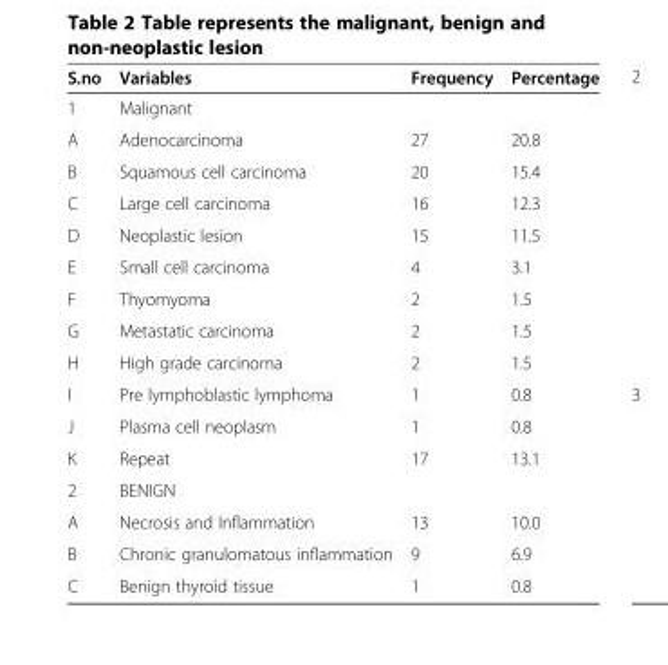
<table><thead><tr><td>S.no</td><td>Variables</td><td>Frequency</td><td>Percentage</td></tr></thead><tbody><tr><td>1</td><td>Malignant</td><td></td><td></td></tr><tr><td>A</td><td>Adenocarcinoma</td><td>27</td><td>20.8</td></tr><tr><td>B</td><td>Squamous cell carcinoma</td><td>20</td><td>15.4</td></tr><tr><td>C</td><td>Large cell carcinoma</td><td>16</td><td>12.3</td></tr><tr><td>D</td><td>Neoplastic lesion</td><td>15</td><td>11.5</td></tr><tr><td>E</td><td>Small cell carcinoma</td><td>4</td><td>3.1</td></tr><tr><td>F</td><td>Thyomyoma</td><td>2</td><td>1.5</td></tr><tr><td>G</td><td>Metastatic carcinoma</td><td>2</td><td>1.5</td></tr><tr><td>H</td><td>High grade carcinoma</td><td>2</td><td>1.5</td></tr><tr><td>I</td><td>Pre lymphoblastic lymphoma</td><td>1</td><td>0.8</td></tr><tr><td>J</td><td>Plasma cell neoplasm</td><td>1</td><td>0.8</td></tr><tr><td>K</td><td>Repeat</td><td>17</td><td>13.1</td></tr><tr><td>2</td><td>BENIGN</td><td></td><td></td></tr><tr><td>A</td><td>Necrosis and Inflammation</td><td>13</td><td>10.0</td></tr><tr><td>B</td><td>Chronic granulomatous inflammation</td><td>9</td><td>6.9</td></tr><tr><td>C</td><td>Benign thyroid tissue</td><td>1</td><td>0.8</td></tr></tbody></table>